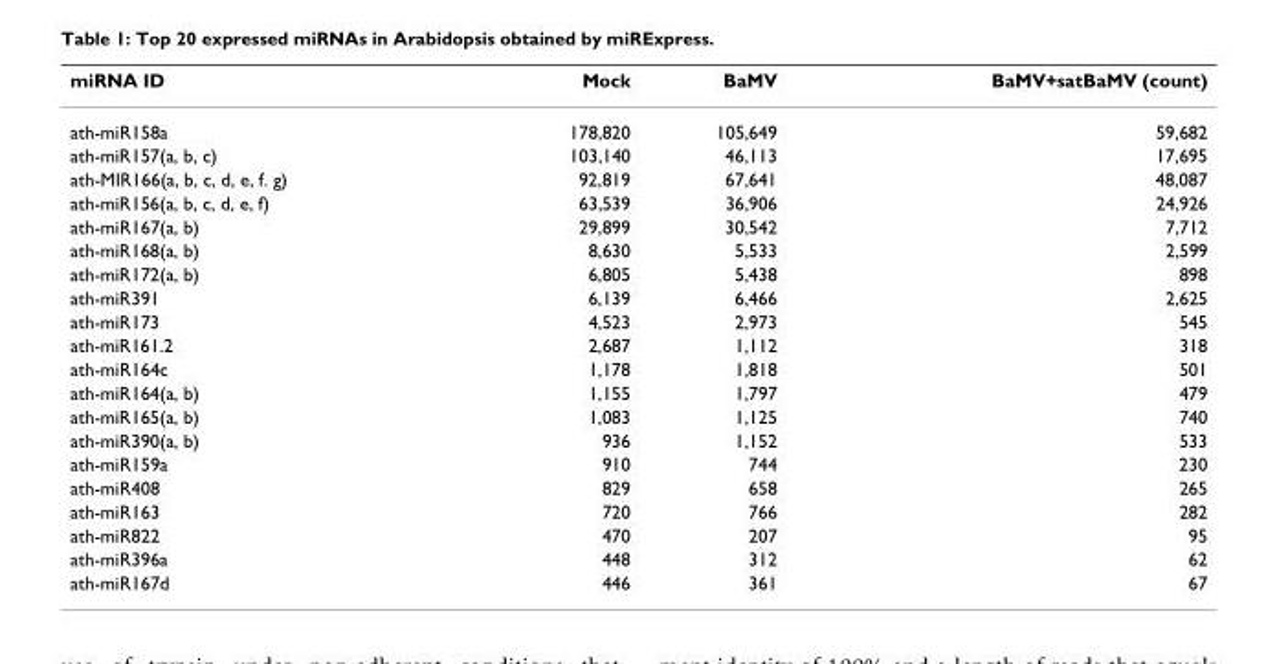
<table><thead><tr><td>miRNA ID</td><td>Mock</td><td>BaMV</td><td>BaMV+satBaMV (count)</td></tr></thead><tbody><tr><td>ath-miR158a</td><td>178,820</td><td>105,649</td><td>59,682</td></tr><tr><td>ath-miR157(a, b, c)</td><td>103,140</td><td>46,113</td><td>17,695</td></tr><tr><td>ath-MIR166(a, b, c, d, e, f. g)</td><td>92,819</td><td>67,641</td><td>48,087</td></tr><tr><td>ath-miR156(a, b, c, d, e, f)</td><td>63,539</td><td>36,906</td><td>24,926</td></tr><tr><td>ath-miR167(a, b)</td><td>29,899</td><td>30,542</td><td>7,712</td></tr><tr><td>ath-miR168(a, b)</td><td>8,630</td><td>5,533</td><td>2,599</td></tr><tr><td>ath-miR172(a, b)</td><td>6,805</td><td>5,438</td><td>898</td></tr><tr><td>ath-miR391</td><td>6,139</td><td>6,466</td><td>2,625</td></tr><tr><td>ath-miR173</td><td>4,523</td><td>2,973</td><td>545</td></tr><tr><td>ath-miR161.2</td><td>2,687</td><td>1,112</td><td>318</td></tr><tr><td>ath-miR164c</td><td>1,178</td><td>1,818</td><td>501</td></tr><tr><td>ath-miR164(a, b)</td><td>1,155</td><td>1,797</td><td>479</td></tr><tr><td>ath-miR165(a, b)</td><td>1,083</td><td>1,125</td><td>740</td></tr><tr><td>ath-miR390(a, b)</td><td>936</td><td>1,152</td><td>533</td></tr><tr><td>ath-miR159a</td><td>910</td><td>744</td><td>230</td></tr><tr><td>ath-miR408</td><td>829</td><td>658</td><td>265</td></tr><tr><td>ath-miR163</td><td>720</td><td>766</td><td>282</td></tr><tr><td>ath-miR822</td><td>470</td><td>207</td><td>95</td></tr><tr><td>ath-miR396a</td><td>448</td><td>312</td><td>62</td></tr><tr><td>ath-miR167d</td><td>446</td><td>361</td><td>67</td></tr></tbody></table>